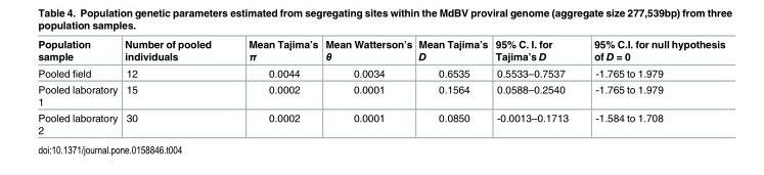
<table><thead><tr><td>Population sample</td><td>Number of pooled individuals</td><td>Mean Tajima’s π</td><td>Mean Watterson’s θ</td><td>Mean Tajima’s D</td><td>95% C. I. for Tajima’s D</td><td>95% C.I. for null hypothesis of D = 0</td></tr></thead><tbody><tr><td>Pooled field</td><td>12</td><td>0.0044</td><td>0.0034</td><td>0.6535</td><td>0.5533–0.7537</td><td>-1.765 to 1.979</td></tr><tr><td>Pooled laboratory 1</td><td>15</td><td>0.0002</td><td>0.0001</td><td>0.1564</td><td>0.0588–0.2540</td><td>-1.765 to 1.979</td></tr><tr><td>Pooled laboratory 2</td><td>30</td><td>0.0002</td><td>0.0001</td><td>0.0850</td><td>-0.0013–0.1713</td><td>-1.584 to 1.708</td></tr></tbody></table>